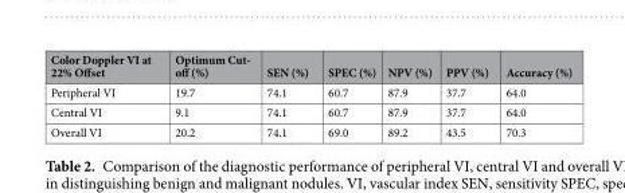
<table><thead><tr><td>Color Doppler VI at 22% Offset</td><td>Optimum Cut- off (%)</td><td>SEN (%)</td><td>SPEC (%)</td><td>NPV (%)</td><td>PPV (%)</td><td>Accuracy (%)</td></tr></thead><tbody><tr><td>Peripheral VI</td><td>19.7</td><td>74.1</td><td>60.7</td><td>87.9</td><td>37.7</td><td>64.0</td></tr><tr><td>Central VI</td><td>9.1</td><td>74.1</td><td>60.7</td><td>87.9</td><td>37.7</td><td>64.0</td></tr><tr><td>Overall VI</td><td>20.2</td><td>74.1</td><td>69.0</td><td>89.2</td><td>43.5</td><td>70.3</td></tr></tbody></table>